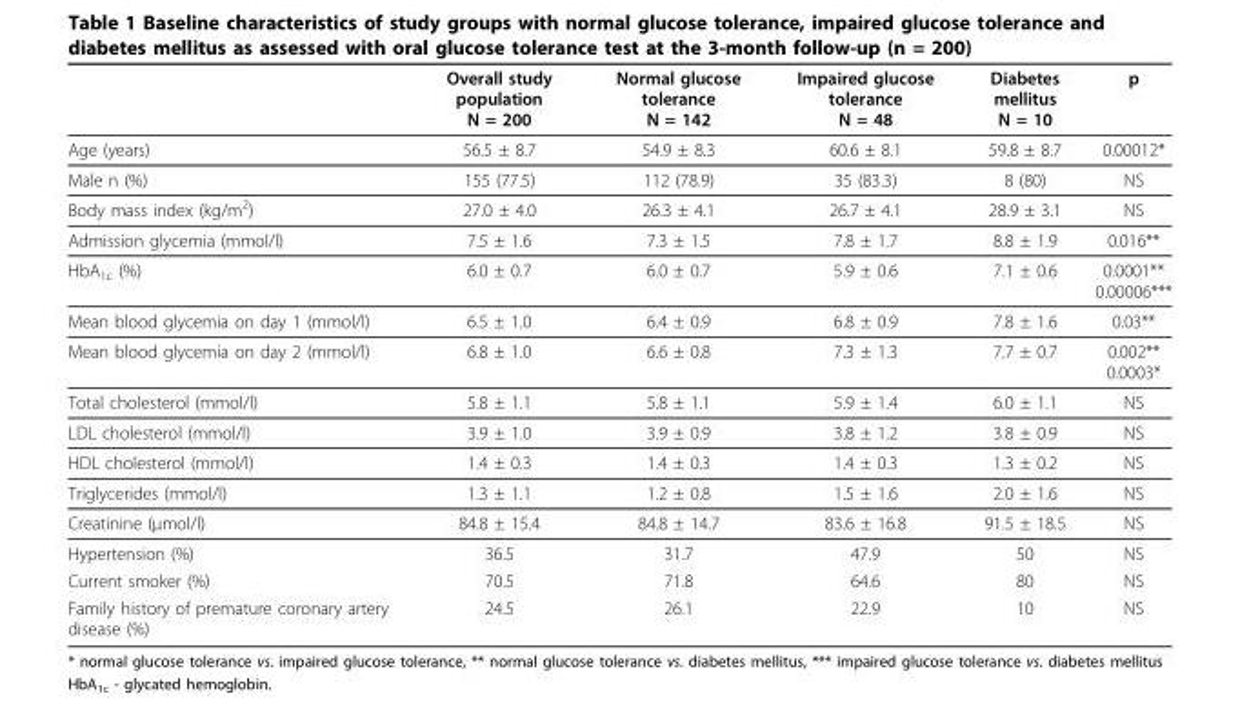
<table><thead><tr><td></td><td>Overall study population N = 200</td><td>Normal glucose tolerance N = 142</td><td>Impaired glucose tolerance N = 48</td><td>Diabetes mellitus N = 10</td><td>p</td></tr></thead><tbody><tr><td>Age (years)</td><td>56.5 ± 8.7</td><td>54.9 ± 8.3</td><td>60.6 ± 8.1</td><td>59.8 ± 8.7</td><td>0.00012*</td></tr><tr><td>Male n (%)</td><td>155 (77.5)</td><td>112 (78.9)</td><td>35 (83.3)</td><td>8 (80)</td><td>NS</td></tr><tr><td>Body mass index (kg/m<sup>2</sup>)</td><td>27.0 ± 4.0</td><td>26.3 ± 4.1</td><td>26.7 ± 4.1</td><td>28.9 ± 3.1</td><td>NS</td></tr><tr><td>Admission glycemia (mmol/l)</td><td>7.5 ± 1.6</td><td>7.3 ± 1.5</td><td>7.8 ± 1.7</td><td>8.8 ± 1.9</td><td>0.016**</td></tr><tr><td>HbA<sub>1c</sub> (%)</td><td>6.0 ± 0.7</td><td>6.0 ± 0.7</td><td>5.9 ± 0.6</td><td>7.1 ± 0.6</td><td>0.0001** 0.00006***</td></tr><tr><td>Mean blood glycemia on day 1 (mmol/l)</td><td>6.5 ± 1.0</td><td>6.4 ± 0.9</td><td>6.8 ± 0.9</td><td>7.8 ± 1.6</td><td>0.03**</td></tr><tr><td>Mean blood glycemia on day 2 (mmol/l)</td><td>6.8 ± 1.0</td><td>6.6 ± 0.8</td><td>7.3 ± 1.3</td><td>7.7 ± 0.7</td><td>0.002** 0.0003*</td></tr><tr><td>Total cholesterol (mmol/l)</td><td>5.8 ± 1.1</td><td>5.8 ± 1.1</td><td>5.9 ± 1.4</td><td>6.0 ± 1.1</td><td>NS</td></tr><tr><td>LDL cholesterol (mmol/l)</td><td>3.9 ± 1.0</td><td>3.9 ± 0.9</td><td>3.8 ± 1.2</td><td>3.8 ± 0.9</td><td>NS</td></tr><tr><td>HDL cholesterol (mmol/l)</td><td>1.4 ± 0.3</td><td>1.4 ± 0.3</td><td>1.4 ± 0.3</td><td>1.3 ± 0.2</td><td>NS</td></tr><tr><td>Triglycerides (mmol/l)</td><td>1.3 ± 1.1</td><td>1.2 ± 0.8</td><td>1.5 ± 1.6</td><td>2.0 ± 1.6</td><td>NS</td></tr><tr><td>Creatinine (μmol/l)</td><td>84.8 ± 15.4</td><td>84.8 ± 14.7</td><td>83.6 ± 16.8</td><td>91.5 ± 18.5</td><td>NS</td></tr><tr><td>Hypertension (%)</td><td>36.5</td><td>31.7</td><td>47.9</td><td>50</td><td>NS</td></tr><tr><td>Current smoker (%)</td><td>70.5</td><td>71.8</td><td>64.6</td><td>80</td><td>NS</td></tr><tr><td>Family history of premature coronary artery disease (%)</td><td>24.5</td><td>26.1</td><td>22.9</td><td>10</td><td>NS</td></tr></tbody></table>